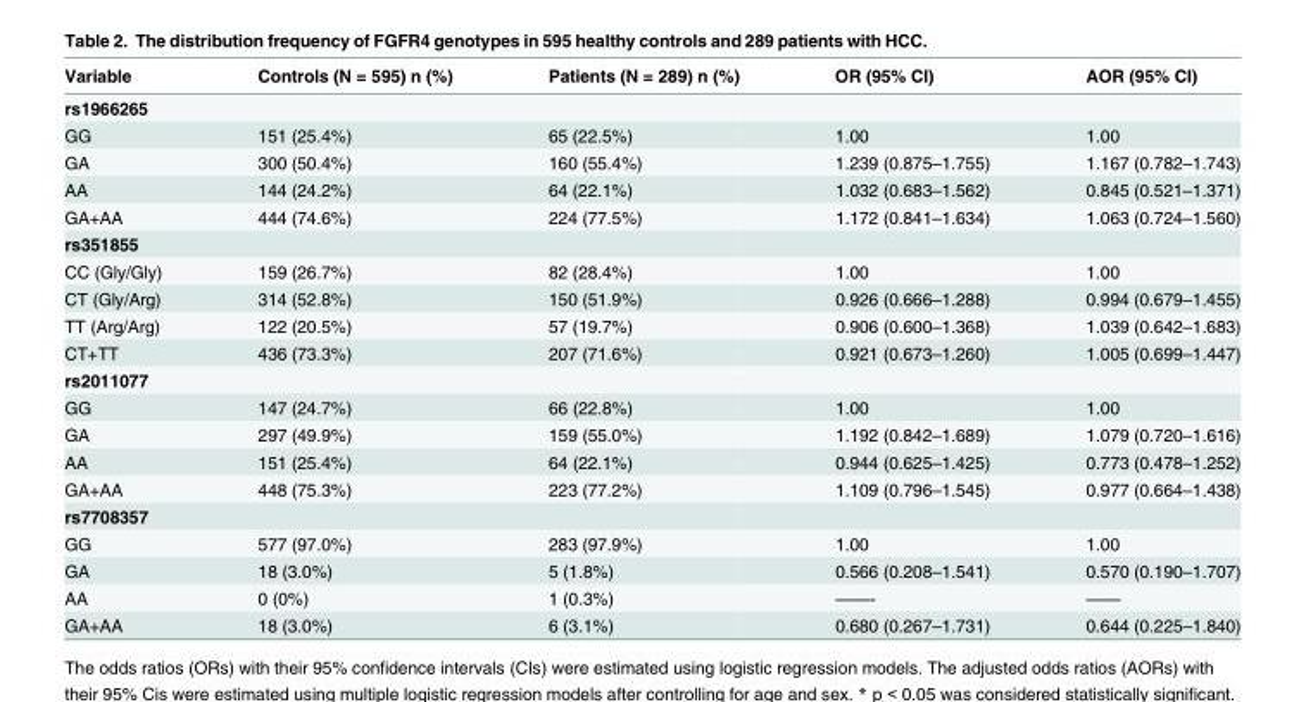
<table><thead><tr><td>Variable</td><td>Controls (N = 595) n (%)</td><td>Patients (N = 289) n (%)</td><td>OR (95% CI)</td><td>AOR (95% CI)</td></tr></thead><tbody><tr><td colspan="5">rs1966265</td></tr><tr><td>GG</td><td>151 (25.4%)</td><td>65 (22.5%)</td><td>1.00</td><td>1.00</td></tr><tr><td>GA</td><td>300 (50.4%)</td><td>160 (55.4%)</td><td>1.239 (0.875–1.755)</td><td>1.167 (0.782–1.743)</td></tr><tr><td>AA</td><td>144 (24.2%)</td><td>64 (22.1%)</td><td>1.032 (0.683–1.562)</td><td>0.845 (0.521–1.371)</td></tr><tr><td>GA+AA</td><td>444 (74.6%)</td><td>224 (77.5%)</td><td>1.172 (0.841–1.634)</td><td>1.063 (0.724–1.560)</td></tr><tr><td colspan="5">rs351855</td></tr><tr><td>CC (Gly/Gly)</td><td>159 (26.7%)</td><td>82 (28.4%)</td><td>1.00</td><td>1.00</td></tr><tr><td>CT (Gly/Arg)</td><td>314 (52.8%)</td><td>150 (51.9%)</td><td>0.926 (0.666–1.288)</td><td>0.994 (0.679–1.455)</td></tr><tr><td>TT (Arg/Arg)</td><td>122 (20.5%)</td><td>57 (19.7%)</td><td>0.906 (0.600–1.368)</td><td>1.039 (0.642–1.683)</td></tr><tr><td>CT+TT</td><td>436 (73.3%)</td><td>207 (71.6%)</td><td>0.921 (0.673–1.260)</td><td>1.005 (0.699–1.447)</td></tr><tr><td colspan="5">rs2011077</td></tr><tr><td>GG</td><td>147 (24.7%)</td><td>66 (22.8%)</td><td>1.00</td><td>1.00</td></tr><tr><td>GA</td><td>297 (49.9%)</td><td>159 (55.0%)</td><td>1.192 (0.842–1.689)</td><td>1.079 (0.720–1.616)</td></tr><tr><td>AA</td><td>151 (25.4%)</td><td>64 (22.1%)</td><td>0.944 (0.625–1.425)</td><td>0.773 (0.478–1.252)</td></tr><tr><td>GA+AA</td><td>448 (75.3%)</td><td>223 (77.2%)</td><td>1.109 (0.796–1.545)</td><td>0.977 (0.664–1.438)</td></tr><tr><td colspan="5">rs7708357</td></tr><tr><td>GG</td><td>577 (97.0%)</td><td>283 (97.9%)</td><td>1.00</td><td>1.00</td></tr><tr><td>GA</td><td>18 (3.0%)</td><td>5 (1.8%)</td><td>0.566 (0.208–1.541)</td><td>0.570 (0.190–1.707)</td></tr><tr><td>AA</td><td>0 (0%)</td><td>1 (0.3%)</td><td>——-</td><td>——</td></tr><tr><td>GA+AA</td><td>18 (3.0%)</td><td>6 (3.1%)</td><td>0.680 (0.267–1.731)</td><td>0.644 (0.225–1.840)</td></tr></tbody></table>